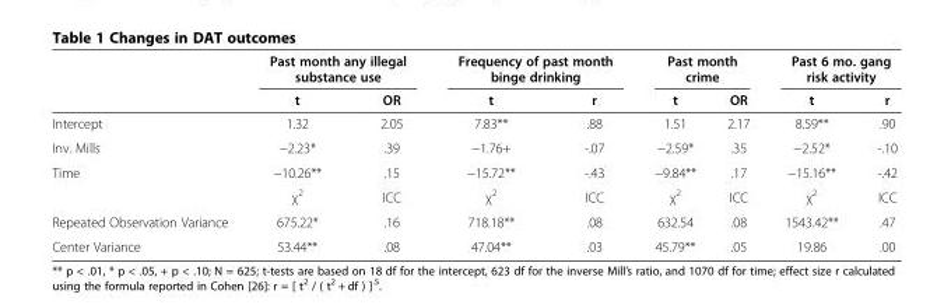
<table><thead><tr><td rowspan="2"></td><td colspan="2">Past month any illegal substance use</td><td colspan="2">Frequency of past month binge drinking</td><td colspan="2">Past month crime</td><td colspan="2">Past 6 mo. gang risk activity</td></tr><tr><td>t</td><td>OR</td><td>t</td><td>r</td><td>t</td><td>OR</td><td>t</td><td>r</td></tr></thead><tbody><tr><td>Intercept</td><td>1.32</td><td>2.05</td><td>7.83**</td><td>.88</td><td>1.51</td><td>2.17</td><td>8.59**</td><td>.90</td></tr><tr><td>Inv. Mills</td><td>−2.23*</td><td>.39</td><td>−1.76+</td><td>-.07</td><td>−2.59*</td><td>.35</td><td>−2.52*</td><td>-.10</td></tr><tr><td rowspan="2">Time</td><td>−10.26**</td><td>.15</td><td>−15.72**</td><td>-.43</td><td>−9.84**</td><td>.17</td><td>−15.16**</td><td>-.42</td></tr><tr><td>χ<sup>2</sup></td><td>ICC</td><td>χ<sup>2</sup></td><td>ICC</td><td>χ<sup>2</sup></td><td>ICC</td><td>χ<sup>2</sup></td><td>ICC</td></tr><tr><td>Repeated Observation Variance</td><td>675.22*</td><td>.16</td><td>718.18**</td><td>.08</td><td>632.54</td><td>.08</td><td>1543.42**</td><td>.47</td></tr><tr><td>Center Variance</td><td>53.44**</td><td>.08</td><td>47.04**</td><td>.03</td><td>45.79**</td><td>.05</td><td>19.86</td><td>.00</td></tr></tbody></table>